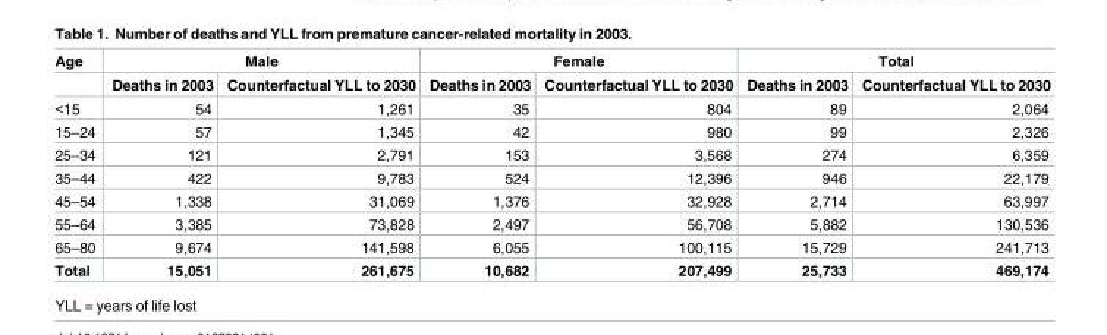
<table><thead><tr><td rowspan="2">Age</td><td colspan="2">Male</td><td colspan="2">Female</td><td colspan="2">Total</td></tr><tr><td>Deaths in 2003</td><td>Counterfactual YLL to 2030</td><td>Deaths in 2003</td><td>Counterfactual YLL to 2030</td><td>Deaths in 2003</td><td>Counterfactual YLL to 2030</td></tr></thead><tbody><tr><td>&lt;15</td><td>54</td><td>1,261</td><td>35</td><td>804</td><td>89</td><td>2,064</td></tr><tr><td>15–24</td><td>57</td><td>1,345</td><td>42</td><td>980</td><td>99</td><td>2,326</td></tr><tr><td>25–34</td><td>121</td><td>2,791</td><td>153</td><td>3,568</td><td>274</td><td>6,359</td></tr><tr><td>35–44</td><td>422</td><td>9,783</td><td>524</td><td>12,396</td><td>946</td><td>22,179</td></tr><tr><td>45–54</td><td>1,338</td><td>31,069</td><td>1,376</td><td>32,928</td><td>2,714</td><td>63,997</td></tr><tr><td>55–64</td><td>3,385</td><td>73,828</td><td>2,497</td><td>56,708</td><td>5,882</td><td>130,536</td></tr><tr><td>65–80</td><td>9,674</td><td>141,598</td><td>6,055</td><td>100,115</td><td>15,729</td><td>241,713</td></tr><tr><td>Total</td><td>15,051</td><td>261,675</td><td>10,682</td><td>207,499</td><td>25,733</td><td>469,174</td></tr></tbody></table>